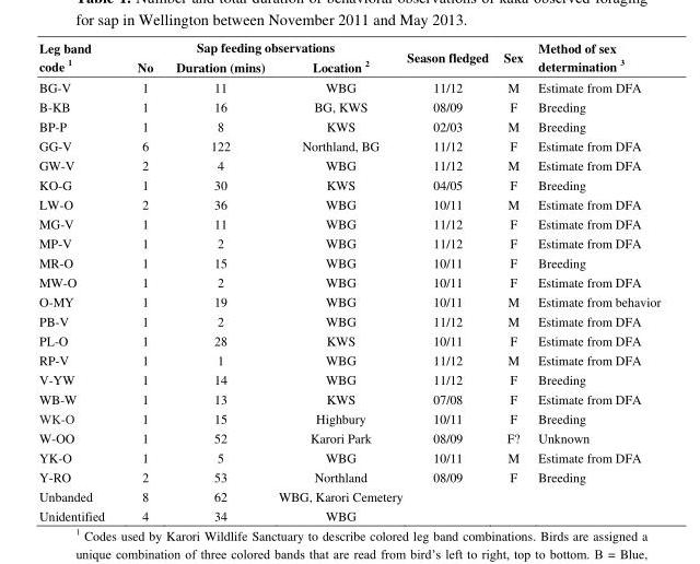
<table><thead><tr><td rowspan="2">Leg band code <sup>1</sup></td><td colspan="3">Sap feeding observations</td><td rowspan="2">Season fledged</td><td rowspan="2">Sex</td><td rowspan="2">Method of sex determination <sup>3</sup></td></tr><tr><td>No</td><td>Duration (mins)</td><td>Location <sup>2</sup></td></tr></thead><tbody><tr><td>BG-V</td><td>1</td><td>11</td><td>WBG</td><td>11/12</td><td>M</td><td>Estimate from DFA</td></tr><tr><td>B-KB</td><td>1</td><td>16</td><td>BG, KWS</td><td>08/09</td><td>F</td><td>Breeding</td></tr><tr><td>BP-P</td><td>1</td><td>8</td><td>KWS</td><td>02/03</td><td>M</td><td>Breeding</td></tr><tr><td>GG-V</td><td>6</td><td>122</td><td>Northland, BG</td><td>11/12</td><td>F</td><td>Estimate from DFA</td></tr><tr><td>GW-V</td><td>2</td><td>4</td><td>WBG</td><td>11/12</td><td>M</td><td>Estimate from DFA</td></tr><tr><td>KO-G</td><td>1</td><td>30</td><td>KWS</td><td>04/05</td><td>F</td><td>Breeding</td></tr><tr><td>LW-O</td><td>2</td><td>36</td><td>WBG</td><td>10/11</td><td>M</td><td>Estimate from DFA</td></tr><tr><td>MG-V</td><td>1</td><td>11</td><td>WBG</td><td>11/12</td><td>F</td><td>Estimate from DFA</td></tr><tr><td>MP-V</td><td>1</td><td>2</td><td>WBG</td><td>11/12</td><td>F</td><td>Estimate from DFA</td></tr><tr><td>MR-O</td><td>1</td><td>15</td><td>WBG</td><td>10/11</td><td>F</td><td>Breeding</td></tr><tr><td>MW-O</td><td>1</td><td>2</td><td>WBG</td><td>10/11</td><td>F</td><td>Estimate from DFA</td></tr><tr><td>O-MY</td><td>1</td><td>19</td><td>WBG</td><td>10/11</td><td>M</td><td>Estimate from behavior</td></tr><tr><td>PB-V</td><td>1</td><td>2</td><td>WBG</td><td>11/12</td><td>M</td><td>Estimate from DFA</td></tr><tr><td>PL-O</td><td>1</td><td>28</td><td>KWS</td><td>10/11</td><td>F</td><td>Estimate from DFA</td></tr><tr><td>RP-V</td><td>1</td><td>1</td><td>WBG</td><td>11/12</td><td>M</td><td>Estimate from DFA</td></tr><tr><td>V-YW</td><td>1</td><td>14</td><td>WBG</td><td>11/12</td><td>F</td><td>Breeding</td></tr><tr><td>WB-W</td><td>1</td><td>13</td><td>KWS</td><td>07/08</td><td>F</td><td>Estimate from DFA</td></tr><tr><td>WK-O</td><td>1</td><td>15</td><td>Highbury</td><td>10/11</td><td>F</td><td>Breeding</td></tr><tr><td>W-OO</td><td>1</td><td>52</td><td>Karori Park</td><td>08/09</td><td>F?</td><td>Unknown</td></tr><tr><td>YK-O</td><td>1</td><td>5</td><td>WBG</td><td>10/11</td><td>M</td><td>Estimate from DFA</td></tr><tr><td>Y-RO</td><td>2</td><td>53</td><td>Northland</td><td>08/09</td><td>F</td><td>Breeding</td></tr><tr><td>Unbanded</td><td>8</td><td>62</td><td>WBG, Karori Cemetery</td><td></td><td></td><td></td></tr><tr><td>Unidentified</td><td>4</td><td>34</td><td>WBG</td><td></td><td></td><td></td></tr></tbody></table>